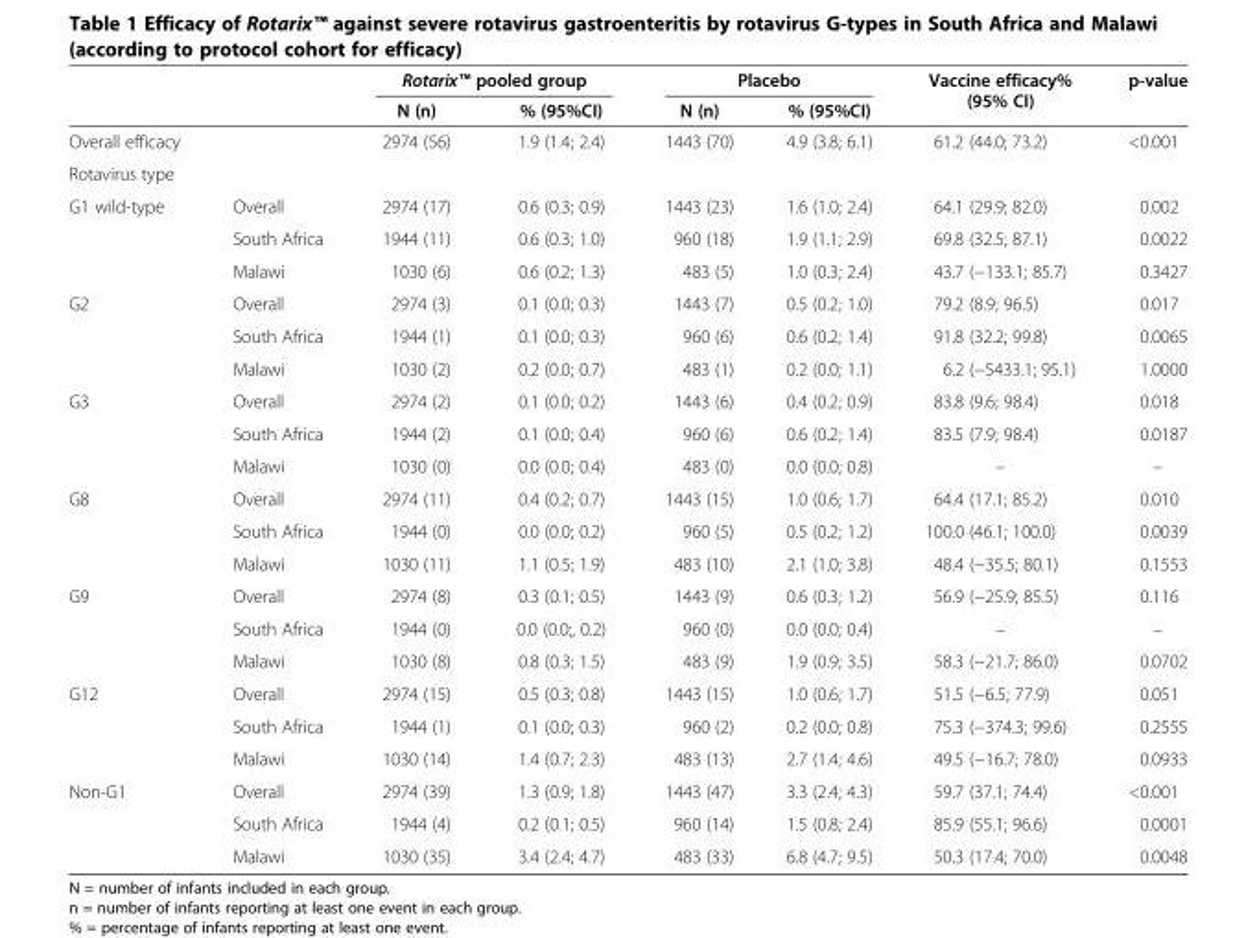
<table><thead><tr><td rowspan="2"></td><td rowspan="2"></td><td colspan="2">Rotarix™ pooled group</td><td colspan="2">Placebo</td><td rowspan="2">Vaccine efficacy% (95% CI)</td><td rowspan="2">p-value</td></tr><tr><td>N (n)</td><td>% (95%CI)</td><td>N (n)</td><td>% (95%CI)</td></tr></thead><tbody><tr><td>Overall efficacy</td><td></td><td>2974 (56)</td><td>1.9 (1.4; 2.4)</td><td>1443 (70)</td><td>4.9 (3.8; 6.1)</td><td>61.2 (44.0; 73.2)</td><td>&lt;0.001</td></tr><tr><td colspan="8">Rotavirus type</td></tr><tr><td rowspan="3">G1 wild-type</td><td>Overall</td><td>2974 (17)</td><td>0.6 (0.3; 0.9)</td><td>1443 (23)</td><td>1.6 (1.0; 2.4)</td><td>64.1 (29.9; 82.0)</td><td>0.002</td></tr><tr><td>South Africa</td><td>1944 (11)</td><td>0.6 (0.3; 1.0)</td><td>960 (18)</td><td>1.9 (1.1; 2.9)</td><td>69.8 (32.5; 87.1)</td><td>0.0022</td></tr><tr><td>Malawi</td><td>1030 (6)</td><td>0.6 (0.2; 1.3)</td><td>483 (5)</td><td>1.0 (0.3; 2.4)</td><td>43.7 (−133.1; 85.7)</td><td>0.3427</td></tr><tr><td rowspan="3">G2</td><td>Overall</td><td>2974 (3)</td><td>0.1 (0.0; 0.3)</td><td>1443 (7)</td><td>0.5 (0.2; 1.0)</td><td>79.2 (8.9; 96.5)</td><td>0.017</td></tr><tr><td>South Africa</td><td>1944 (1)</td><td>0.1 (0.0; 0.3)</td><td>960 (6)</td><td>0.6 (0.2; 1.4)</td><td>91.8 (32.2; 99.8)</td><td>0.0065</td></tr><tr><td>Malawi</td><td>1030 (2)</td><td>0.2 (0.0; 0.7)</td><td>483 (1)</td><td>0.2 (0.0; 1.1)</td><td>6.2 (−5433.1; 95.1)</td><td>1.0000</td></tr><tr><td rowspan="3">G3</td><td>Overall</td><td>2974 (2)</td><td>0.1 (0.0; 0.2)</td><td>1443 (6)</td><td>0.4 (0.2; 0.9)</td><td>83.8 (9.6; 98.4)</td><td>0.018</td></tr><tr><td>South Africa</td><td>1944 (2)</td><td>0.1 (0.0; 0.4)</td><td>960 (6)</td><td>0.6 (0.2; 1.4)</td><td>83.5 (7.9; 98.4)</td><td>0.0187</td></tr><tr><td>Malawi</td><td>1030 (0)</td><td>0.0 (0.0; 0.4)</td><td>483 (0)</td><td>0.0 (0.0; 0.8)</td><td>–</td><td>–</td></tr><tr><td rowspan="3">G8</td><td>Overall</td><td>2974 (11)</td><td>0.4 (0.2; 0.7)</td><td>1443 (15)</td><td>1.0 (0.6; 1.7)</td><td>64.4 (17.1; 85.2)</td><td>0.010</td></tr><tr><td>South Africa</td><td>1944 (0)</td><td>0.0 (0.0; 0.2)</td><td>960 (5)</td><td>0.5 (0.2; 1.2)</td><td>100.0 (46.1; 100.0)</td><td>0.0039</td></tr><tr><td>Malawi</td><td>1030 (11)</td><td>1.1 (0.5; 1.9)</td><td>483 (10)</td><td>2.1 (1.0; 3.8)</td><td>48.4 (−35.5; 80.1)</td><td>0.1553</td></tr><tr><td rowspan="3">G9</td><td>Overall</td><td>2974 (8)</td><td>0.3 (0.1; 0.5)</td><td>1443 (9)</td><td>0.6 (0.3; 1.2)</td><td>56.9 (−25.9; 85.5)</td><td>0.116</td></tr><tr><td>South Africa</td><td>1944 (0)</td><td>0.0 (0.0;, 0.2)</td><td>960 (0)</td><td>0.0 (0.0; 0.4)</td><td>–</td><td>–</td></tr><tr><td>Malawi</td><td>1030 (8)</td><td>0.8 (0.3; 1.5)</td><td>483 (9)</td><td>1.9 (0.9; 3.5)</td><td>58.3 (−21.7; 86.0)</td><td>0.0702</td></tr><tr><td rowspan="3">G12</td><td>Overall</td><td>2974 (15)</td><td>0.5 (0.3; 0.8)</td><td>1443 (15)</td><td>1.0 (0.6; 1.7)</td><td>51.5 (−6.5; 77.9)</td><td>0.051</td></tr><tr><td>South Africa</td><td>1944 (1)</td><td>0.1 (0.0; 0.3)</td><td>960 (2)</td><td>0.2 (0.0; 0.8)</td><td>75.3 (−374.3; 99.6)</td><td>0.2555</td></tr><tr><td>Malawi</td><td>1030 (14)</td><td>1.4 (0.7; 2.3)</td><td>483 (13)</td><td>2.7 (1.4; 4.6)</td><td>49.5 (−16.7; 78.0)</td><td>0.0933</td></tr><tr><td rowspan="3">Non-G1</td><td>Overall</td><td>2974 (39)</td><td>1.3 (0.9; 1.8)</td><td>1443 (47)</td><td>3.3 (2.4; 4.3)</td><td>59.7 (37.1; 74.4)</td><td>&lt;0.001</td></tr><tr><td>South Africa</td><td>1944 (4)</td><td>0.2 (0.1; 0.5)</td><td>960 (14)</td><td>1.5 (0.8; 2.4)</td><td>85.9 (55.1; 96.6)</td><td>0.0001</td></tr><tr><td>Malawi</td><td>1030 (35)</td><td>3.4 (2.4; 4.7)</td><td>483 (33)</td><td>6.8 (4.7; 9.5)</td><td>50.3 (17.4; 70.0)</td><td>0.0048</td></tr></tbody></table>